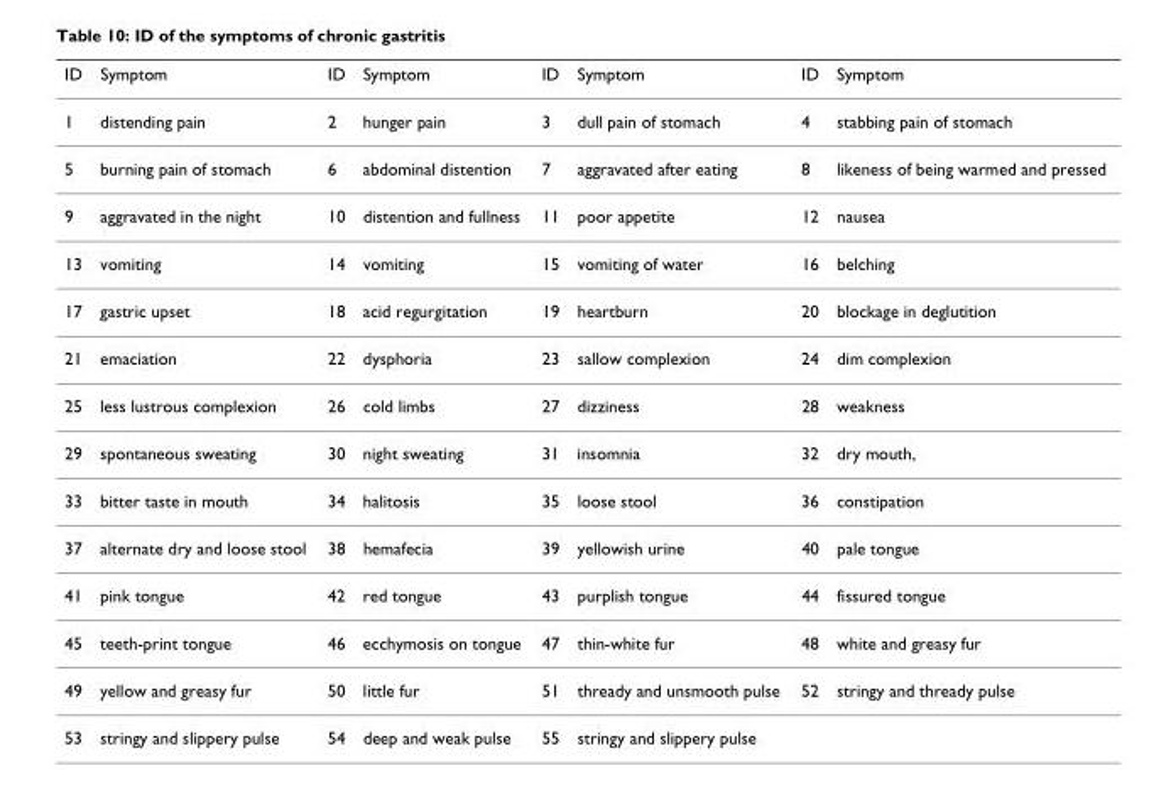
<table><thead><tr><td>ID</td><td>Symptom</td><td>ID</td><td>Symptom</td><td>ID</td><td>Symptom</td><td>ID</td><td>Symptom</td></tr></thead><tbody><tr><td>1</td><td>distending pain</td><td>2</td><td>hunger pain</td><td>3</td><td>dull pain of stomach</td><td>4</td><td>stabbing pain of stomach</td></tr><tr><td>5</td><td>burning pain of stomach</td><td>6</td><td>abdominal distention</td><td>7</td><td>aggravated after eating</td><td>8</td><td>likeness of being warmed and pressed</td></tr><tr><td>9</td><td>aggravated in the night</td><td>10</td><td>distention and fullness</td><td>11</td><td>poor appetite</td><td>12</td><td>nausea</td></tr><tr><td>13</td><td>vomiting</td><td>14</td><td>vomiting</td><td>15</td><td>vomiting of water</td><td>16</td><td>belching</td></tr><tr><td>17</td><td>gastric upset</td><td>18</td><td>acid regurgitation</td><td>19</td><td>heartburn</td><td>20</td><td>blockage in deglutition</td></tr><tr><td>21</td><td>emaciation</td><td>22</td><td>dysphoria</td><td>23</td><td>sallow complexion</td><td>24</td><td>dim complexion</td></tr><tr><td>25</td><td>less lustrous complexion</td><td>26</td><td>cold limbs</td><td>27</td><td>dizziness</td><td>28</td><td>weakness</td></tr><tr><td>29</td><td>spontaneous sweating</td><td>30</td><td>night sweating</td><td>31</td><td>insomnia</td><td>32</td><td>dry mouth,</td></tr><tr><td>33</td><td>bitter taste in mouth</td><td>34</td><td>halitosis</td><td>35</td><td>loose stool</td><td>36</td><td>constipation</td></tr><tr><td>37</td><td>alternate dry and loose stool</td><td>38</td><td>hemafecia</td><td>39</td><td>yellowish urine</td><td>40</td><td>pale tongue</td></tr><tr><td>41</td><td>pink tongue</td><td>42</td><td>red tongue</td><td>43</td><td>purplish tongue</td><td>44</td><td>fissured tongue</td></tr><tr><td>45</td><td>teeth-print tongue</td><td>46</td><td>ecchymosis on tongue</td><td>47</td><td>thin-white fur</td><td>48</td><td>white and greasy fur</td></tr><tr><td>49</td><td>yellow and greasy fur</td><td>50</td><td>little fur</td><td>51</td><td>thready and unsmooth pulse</td><td>52</td><td>stringy and thready pulse</td></tr><tr><td>53</td><td>stringy and slippery pulse</td><td>54</td><td>deep and weak pulse</td><td>55</td><td>stringy and slippery pulse</td><td></td><td></td></tr></tbody></table>